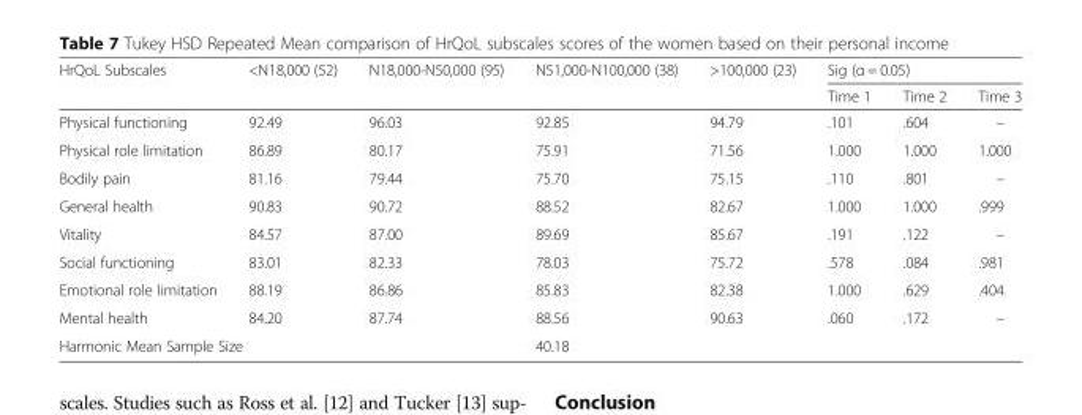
<table><thead><tr><td rowspan="2">HrQoL Subscales</td><td rowspan="2">&lt;N18,000 (52)</td><td rowspan="2">N18,000-N50,000 (95)</td><td rowspan="2">N51,000-N100,000 (38)</td><td rowspan="2">&gt;100,000 (23)</td><td colspan="3">Sig (α = 0.05)</td></tr><tr><td>Time 1</td><td>Time 2</td><td>Time 3</td></tr></thead><tbody><tr><td>Physical functioning</td><td>92.49</td><td>96.03</td><td>92.85</td><td>94.79</td><td>.101</td><td>.604</td><td>–</td></tr><tr><td>Physical role limitation</td><td>86.89</td><td>80.17</td><td>75.91</td><td>71.56</td><td>1.000</td><td>1.000</td><td>1.000</td></tr><tr><td>Bodily pain</td><td>81.16</td><td>79.44</td><td>75.70</td><td>75.15</td><td>.110</td><td>.801</td><td>–</td></tr><tr><td>General health</td><td>90.83</td><td>90.72</td><td>88.52</td><td>82.67</td><td>1.000</td><td>1.000</td><td>.999</td></tr><tr><td>Vitality</td><td>84.57</td><td>87.00</td><td>89.69</td><td>85.67</td><td>.191</td><td>.122</td><td>–</td></tr><tr><td>Social functioning</td><td>83.01</td><td>82.33</td><td>78.03</td><td>75.72</td><td>.578</td><td>.084</td><td>.981</td></tr><tr><td>Emotional role limitation</td><td>88.19</td><td>86.86</td><td>85.83</td><td>82.38</td><td>1.000</td><td>.629</td><td>.404</td></tr><tr><td>Mental health</td><td>84.20</td><td>87.74</td><td>88.56</td><td>90.63</td><td>.060</td><td>.172</td><td>–</td></tr><tr><td colspan="3">Harmonic Mean Sample Size</td><td>40.18</td><td></td><td></td><td></td><td></td></tr></tbody></table>